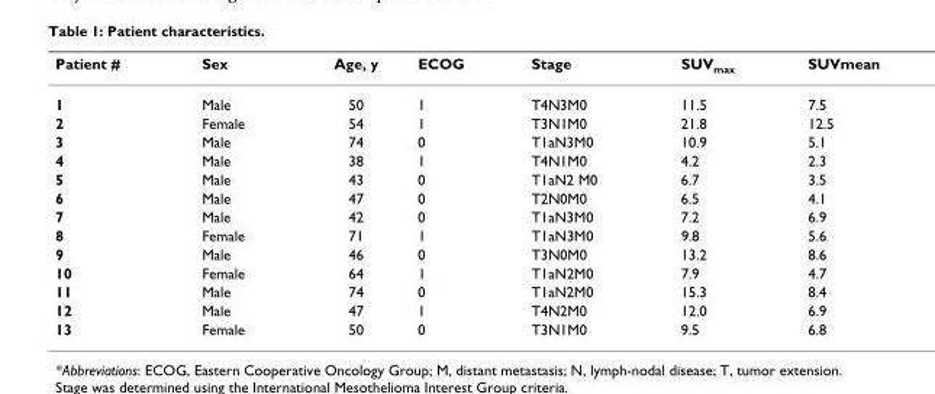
<table><thead><tr><td>Patient #</td><td>Sex</td><td>Age, y</td><td>ECOG</td><td>Stage</td><td>SUV<sub>max</sub></td><td>SUVmean</td></tr></thead><tbody><tr><td>1</td><td>Male</td><td>50</td><td>1</td><td>T4N3M0</td><td>11.5</td><td>7.5</td></tr><tr><td>2</td><td>Female</td><td>54</td><td>1</td><td>T3N1M0</td><td>21.8</td><td>12.5</td></tr><tr><td>3</td><td>Male</td><td>74</td><td>0</td><td>T1aN3M0</td><td>10.9</td><td>5.1</td></tr><tr><td>4</td><td>Male</td><td>38</td><td>1</td><td>T4N1M0</td><td>4.2</td><td>2.3</td></tr><tr><td>5</td><td>Male</td><td>43</td><td>0</td><td>T1aN2 M0</td><td>6.7</td><td>3.5</td></tr><tr><td>6</td><td>Male</td><td>47</td><td>0</td><td>T2N0M0</td><td>6.5</td><td>4.1</td></tr><tr><td>7</td><td>Male</td><td>42</td><td>0</td><td>T1aN3M0</td><td>7.2</td><td>6.9</td></tr><tr><td>8</td><td>Female</td><td>71</td><td>1</td><td>T1aN3M0</td><td>9.8</td><td>5.6</td></tr><tr><td>9</td><td>Male</td><td>46</td><td>0</td><td>T3N0M0</td><td>13.2</td><td>8.6</td></tr><tr><td>10</td><td>Female</td><td>64</td><td>1</td><td>T1aN2M0</td><td>7.9</td><td>4.7</td></tr><tr><td>11</td><td>Male</td><td>74</td><td>0</td><td>T1aN2M0</td><td>15.3</td><td>8.4</td></tr><tr><td>12</td><td>Male</td><td>47</td><td>1</td><td>T4N2M0</td><td>12.0</td><td>6.9</td></tr><tr><td>13</td><td>Female</td><td>50</td><td>0</td><td>T3N1M0</td><td>9.5</td><td>6.8</td></tr></tbody></table>